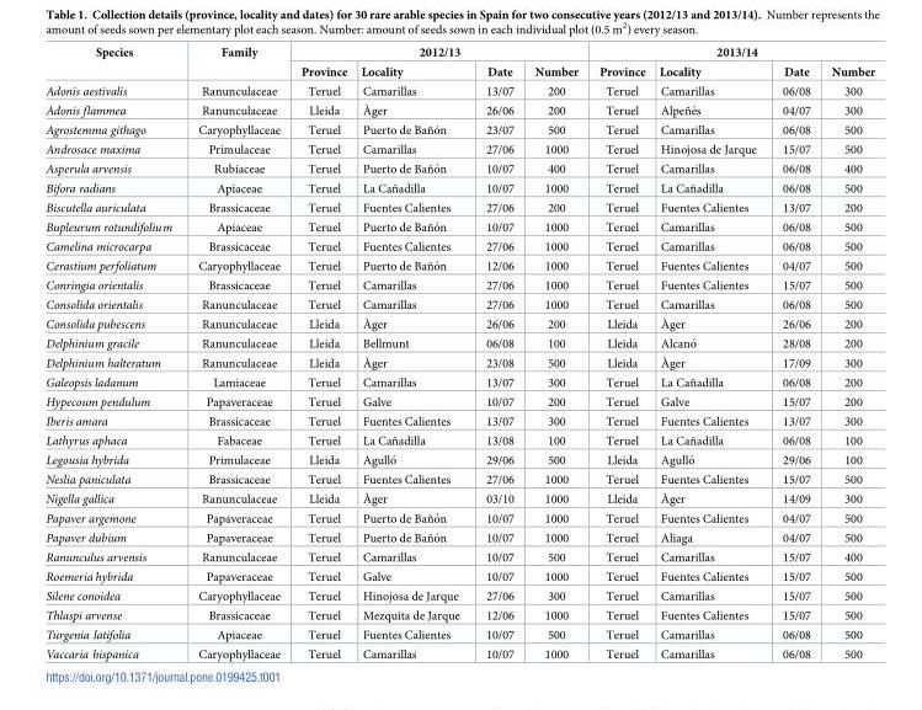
<table><thead><tr><td rowspan="2">Species</td><td rowspan="2">Family</td><td colspan="4">2012/13</td><td colspan="4">2013/14</td></tr><tr><td>Province</td><td>Locality</td><td>Date</td><td>Number</td><td>Province</td><td>Locality</td><td>Date</td><td>Number</td></tr></thead><tbody><tr><td>Adonis aestivalis</td><td>Ranunculaceae</td><td>Teruel</td><td>Camarillas</td><td>13/07</td><td>200</td><td>Teruel</td><td>Camarillas</td><td>06/08</td><td>300</td></tr><tr><td>Adonis flammea</td><td>Ranunculaceae</td><td>Lleida</td><td>Àger</td><td>26/06</td><td>200</td><td>Teruel</td><td>Alpeñe´s</td><td>04/07</td><td>300</td></tr><tr><td>Agrostemma githago</td><td>Caryophyllaceae</td><td>Teruel</td><td>Puerto de Baño´n</td><td>23/07</td><td>500</td><td>Teruel</td><td>Camarillas</td><td>06/08</td><td>500</td></tr><tr><td>Androsace maxima</td><td>Primulaceae</td><td>Teruel</td><td>Camarillas</td><td>27/06</td><td>1000</td><td>Teruel</td><td>Hinojosa de Jarque</td><td>15/07</td><td>500</td></tr><tr><td>Asperula arvensis</td><td>Rubiaceae</td><td>Teruel</td><td>Puerto de Baño´n</td><td>10/07</td><td>400</td><td>Teruel</td><td>Camarillas</td><td>06/08</td><td>400</td></tr><tr><td>Bifora radians</td><td>Apiaceae</td><td>Teruel</td><td>La Cañadilla</td><td>10/07</td><td>1000</td><td>Teruel</td><td>La Cañadilla</td><td>06/08</td><td>500</td></tr><tr><td>Biscutella auriculata</td><td>Brassicaceae</td><td>Teruel</td><td>Fuentes Calientes</td><td>27/06</td><td>200</td><td>Teruel</td><td>Fuentes Calientes</td><td>13/07</td><td>200</td></tr><tr><td>Bupleurum rotundifolium</td><td>Apiaceae</td><td>Teruel</td><td>Puerto de Baño´n</td><td>10/07</td><td>1000</td><td>Teruel</td><td>Camarillas</td><td>06/08</td><td>500</td></tr><tr><td>Camelina microcarpa</td><td>Brassicaceae</td><td>Teruel</td><td>Fuentes Calientes</td><td>27/06</td><td>1000</td><td>Teruel</td><td>Camarillas</td><td>06/08</td><td>500</td></tr><tr><td>Cerastium perfoliatum</td><td>Caryophyllaceae</td><td>Teruel</td><td>Puerto de Baño´n</td><td>12/06</td><td>1000</td><td>Teruel</td><td>Fuentes Calientes</td><td>04/07</td><td>500</td></tr><tr><td>Conringia orientalis</td><td>Brassicaceae</td><td>Teruel</td><td>Camarillas</td><td>27/06</td><td>1000</td><td>Teruel</td><td>Fuentes Calientes</td><td>15/07</td><td>500</td></tr><tr><td>Consolida orientalis</td><td>Ranunculaceae</td><td>Teruel</td><td>Camarillas</td><td>27/06</td><td>1000</td><td>Teruel</td><td>Camarillas</td><td>06/08</td><td>500</td></tr><tr><td>Consolida pubescens</td><td>Ranunculaceae</td><td>Lleida</td><td>Àger</td><td>26/06</td><td>200</td><td>Lleida</td><td>Àger</td><td>26/06</td><td>200</td></tr><tr><td>Delphinium gracile</td><td>Ranunculaceae</td><td>Lleida</td><td>Bellmunt</td><td>06/08</td><td>100</td><td>Lleida</td><td>Alcano´</td><td>28/08</td><td>200</td></tr><tr><td>Delphinium halteratum</td><td>Ranunculaceae</td><td>Lleida</td><td>Àger</td><td>23/08</td><td>500</td><td>Lleida</td><td>Àger</td><td>17/09</td><td>300</td></tr><tr><td>Galeopsis ladanum</td><td>Lamiaceae</td><td>Teruel</td><td>Camarillas</td><td>13/07</td><td>300</td><td>Teruel</td><td>La Cañadilla</td><td>06/08</td><td>200</td></tr><tr><td>Hypecoum pendulum</td><td>Papaveraceae</td><td>Teruel</td><td>Galve</td><td>10/07</td><td>200</td><td>Teruel</td><td>Galve</td><td>15/07</td><td>200</td></tr><tr><td>Iberis amara</td><td>Brassicaceae</td><td>Teruel</td><td>Fuentes Calientes</td><td>13/07</td><td>300</td><td>Teruel</td><td>Fuentes Calientes</td><td>13/07</td><td>300</td></tr><tr><td>Lathyrus aphaca</td><td>Fabaceae</td><td>Teruel</td><td>La Cañadilla</td><td>13/08</td><td>100</td><td>Teruel</td><td>La Cañadilla</td><td>06/08</td><td>100</td></tr><tr><td>Legousia hybrida</td><td>Primulaceae</td><td>Lleida</td><td>Agullo´</td><td>29/06</td><td>500</td><td>Lleida</td><td>Agullo´</td><td>29/06</td><td>100</td></tr><tr><td>Neslia paniculata</td><td>Brassicaceae</td><td>Teruel</td><td>Fuentes Calientes</td><td>27/06</td><td>1000</td><td>Teruel</td><td>Fuentes Calientes</td><td>15/07</td><td>500</td></tr><tr><td>Nigella gallica</td><td>Ranunculaceae</td><td>Lleida</td><td>Àger</td><td>03/10</td><td>1000</td><td>Lleida</td><td>Àger</td><td>14/09</td><td>300</td></tr><tr><td>Papaver argemone</td><td>Papaveraceae</td><td>Teruel</td><td>Puerto de Baño´n</td><td>10/07</td><td>1000</td><td>Teruel</td><td>Fuentes Calientes</td><td>04/07</td><td>500</td></tr><tr><td>Papaver dubium</td><td>Papaveraceae</td><td>Teruel</td><td>Puerto de Baño´n</td><td>10/07</td><td>1000</td><td>Teruel</td><td>Aliaga</td><td>04/07</td><td>500</td></tr><tr><td>Ranunculus arvensis</td><td>Ranunculaceae</td><td>Teruel</td><td>Camarillas</td><td>10/07</td><td>500</td><td>Teruel</td><td>Camarillas</td><td>15/07</td><td>400</td></tr><tr><td>Roemeria hybrida</td><td>Papaveraceae</td><td>Teruel</td><td>Galve</td><td>10/07</td><td>1000</td><td>Teruel</td><td>Fuentes Calientes</td><td>15/07</td><td>500</td></tr><tr><td>Silene conoidea</td><td>Caryophyllaceae</td><td>Teruel</td><td>Hinojosa de Jarque</td><td>27/06</td><td>300</td><td>Teruel</td><td>Camarillas</td><td>15/07</td><td>500</td></tr><tr><td>Thlaspi arvense</td><td>Brassicaceae</td><td>Teruel</td><td>Mezquita de Jarque</td><td>12/06</td><td>1000</td><td>Teruel</td><td>Fuentes Calientes</td><td>15/07</td><td>500</td></tr><tr><td>Turgenia latifolia</td><td>Apiaceae</td><td>Teruel</td><td>Fuentes Calientes</td><td>10/07</td><td>500</td><td>Teruel</td><td>Camarillas</td><td>06/08</td><td>500</td></tr><tr><td>Vaccaria hispanica</td><td>Caryophyllaceae</td><td>Teruel</td><td>Camarillas</td><td>10/07</td><td>1000</td><td>Teruel</td><td>Camarillas</td><td>06/08</td><td>500</td></tr></tbody></table>